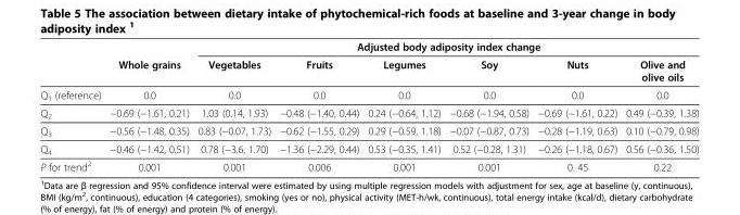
<table><thead><tr><td rowspan="2"></td><td rowspan="2">Whole grains</td><td colspan="6">Adjusted body adiposity index change</td></tr><tr><td>Vegetables</td><td>Fruits</td><td>Legumes</td><td>Soy</td><td>Nuts</td><td>Olive and olive oils</td></tr></thead><tbody><tr><td>Q<sub>1</sub> (reference)</td><td>0.0</td><td>0.0</td><td>0.0</td><td>0.0</td><td>0.0</td><td>0.0</td><td>0.0</td></tr><tr><td>Q<sub>2</sub></td><td>−0.69 (−1.61, 0.21)</td><td>1.03 (0.14, 1.93)</td><td>−0.48 (−1.40, 0.44)</td><td>0.24 (−0.64, 1.12)</td><td>−0.68 (−1.94, 0.58)</td><td>−0.69 (−1.61, 0.22)</td><td>0.49 (−0.39, 1.38)</td></tr><tr><td>Q<sub>3</sub></td><td>−0.56 (−1.48, 0.35)</td><td>0.83 (−0.07, 1.73)</td><td>−0.62 (−1.55, 0.29)</td><td>0.29 (−0.59, 1.18)</td><td>−0.07 (−0.87, 0.73)</td><td>−0.28 (−1.19, 0.63)</td><td>0.10 (−0.79, 0.98)</td></tr><tr><td>Q<sub>4</sub></td><td>−0.46 (−1.42, 0.51)</td><td>0.78 (−3.6, 1.70)</td><td>−1.36 (−2.29, 0.44)</td><td>0.53 (−0.35, 1.41)</td><td>0.52 (−0.28, 1.31)</td><td>−0.26 (−1.18, 0.67)</td><td>0.56 (−0.36, 1.50)</td></tr><tr><td>P for trend<sup>2</sup></td><td>0.001</td><td>0.001</td><td>0.006</td><td>0.001</td><td>0.001</td><td>0. 45</td><td>0.22</td></tr></tbody></table>